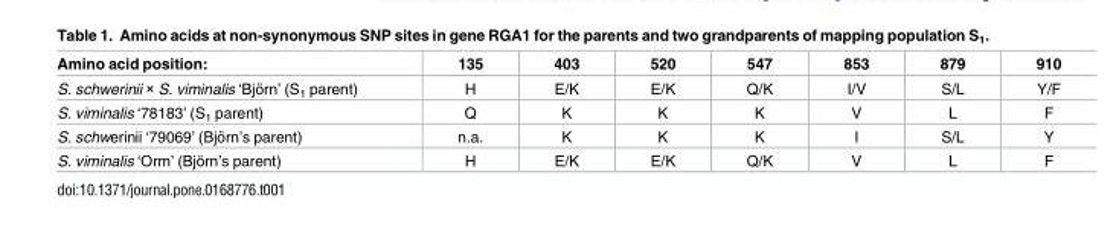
<table><thead><tr><td>Amino acid position:</td><td>135</td><td>403</td><td>520</td><td>547</td><td>853</td><td>879</td><td>910</td></tr></thead><tbody><tr><td>S. schwerinii × S. viminalis ‘Bjo¨rn’ (S1 parent)</td><td>H</td><td>E/K</td><td>E/K</td><td>Q/K</td><td>I/V</td><td>S/L</td><td>Y/F</td></tr><tr><td>S. viminalis ‘78183’ (S<sub>1</sub> parent)</td><td>Q</td><td>K</td><td>K</td><td>K</td><td>V</td><td>L</td><td>F</td></tr><tr><td>S. schwerinii ‘79069’ (Bjo¨rn’s parent)</td><td>n.a.</td><td>K</td><td>K</td><td>K</td><td>I</td><td>S/L</td><td>Y</td></tr><tr><td>S. viminalis ‘Orm’ (Bjo¨rn’s parent)</td><td>H</td><td>E/K</td><td>E/K</td><td>Q/K</td><td>V</td><td>L</td><td>F</td></tr></tbody></table>